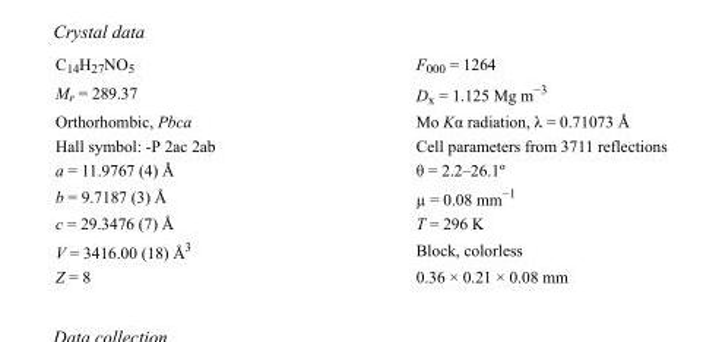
<table><tbody><tr><td>C<sub>14</sub>H<sub>27</sub>NO<sub>5</sub></td><td>F000 = 1264</td></tr><tr><td>M<sub>r</sub> = 289.37</td><td>D<sub>x</sub> = 1.125 Mg m<sup>−3</sup></td></tr><tr><td>Orthorhombic, Pbca</td><td>Mo Kα radiation, λ = 0.71073 Å</td></tr><tr><td>Hall symbol: -P 2ac 2ab</td><td>Cell parameters from 3711 reflections</td></tr><tr><td>a = 11.9767 (4) Å</td><td>θ = 2.2–26.1º</td></tr><tr><td>b = 9.7187 (3) Å</td><td>µ = 0.08 mm<sup>−1</sup></td></tr><tr><td>c = 29.3476 (7) Å</td><td>T = 296 K</td></tr><tr><td>V = 3416.00 (18) Å<sup>3</sup></td><td>Block, colorless</td></tr><tr><td>Z = 8</td><td>0.36 × 0.21 × 0.08 mm</td></tr></tbody></table>